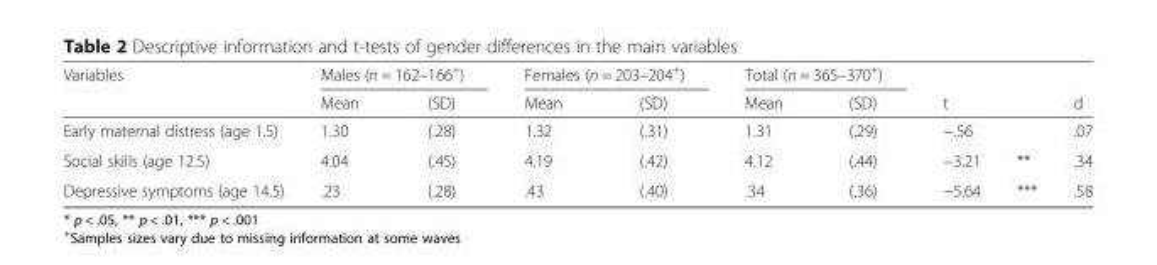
<table><thead><tr><td rowspan="2">Variables</td><td colspan="2">Males (n = 162–166<sup>+</sup>)</td><td colspan="2">Females (n = 203–204<sup>+</sup>)</td><td colspan="2">Total (n = 365–370<sup>+</sup>)</td><td rowspan="2">t</td><td rowspan="2"></td><td rowspan="2">d</td></tr><tr><td>Mean</td><td>(SD)</td><td>Mean</td><td>(SD)</td><td>Mean</td><td>(SD)</td></tr></thead><tbody><tr><td>Early maternal distress (age 1.5)</td><td>1.30</td><td>(.28)</td><td>1.32</td><td>(.31)</td><td>1.31</td><td>(.29)</td><td>−.56</td><td></td><td>.07</td></tr><tr><td>Social skills (age 12.5)</td><td>4.04</td><td>(.45)</td><td>4.19</td><td>(.42)</td><td>4.12</td><td>(.44)</td><td>−3.21</td><td>**</td><td>.34</td></tr><tr><td>Depressive symptoms (age 14.5)</td><td>.23</td><td>(.28)</td><td>.43</td><td>(.40)</td><td>.34</td><td>(.36)</td><td>−5.64</td><td>***</td><td>.58</td></tr></tbody></table>